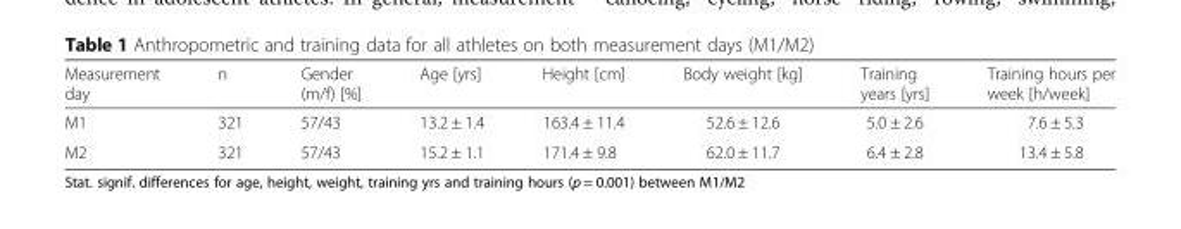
<table><thead><tr><td>Measurement day</td><td>n</td><td>Gender (m/f) [%]</td><td>Age [yrs]</td><td>Height [cm]</td><td>Body weight [kg]</td><td>Training years [yrs]</td><td>Training hours per week [h/week]</td></tr></thead><tbody><tr><td>M1</td><td>321</td><td>57/43</td><td>13.2 ± 1.4</td><td>163.4 ± 11.4</td><td>52.6 ± 12.6</td><td>5.0 ± 2.6</td><td>7.6 ± 5.3</td></tr><tr><td>M2</td><td>321</td><td>57/43</td><td>15.2 ± 1.1</td><td>171.4 ± 9.8</td><td>62.0 ± 11.7</td><td>6.4 ± 2.8</td><td>13.4 ± 5.8</td></tr></tbody></table>